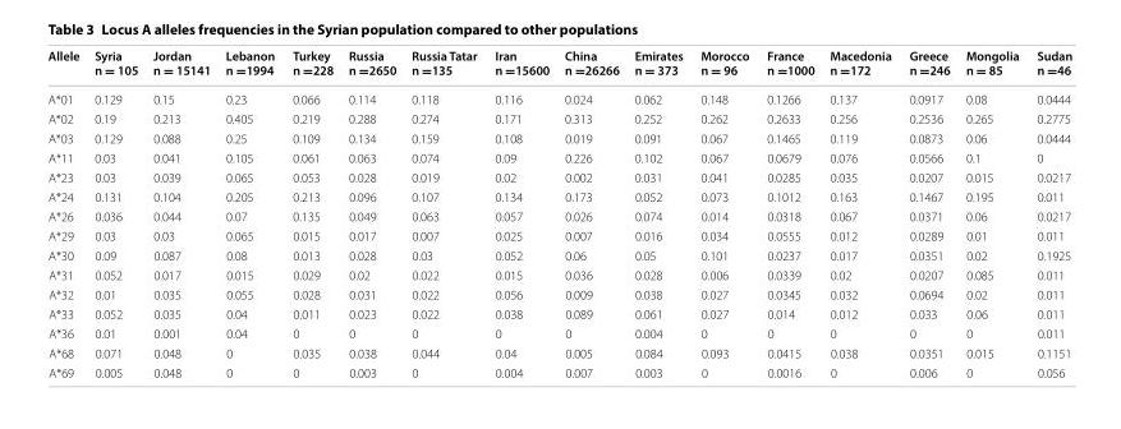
<table><thead><tr><td>Allele</td><td>Syria n = 105</td><td>Jordan n = 15141</td><td>Lebanon n =1994</td><td>Turkey n =228</td><td>Russia n =2650</td><td>Russia Tatar n =135</td><td>Iran n =15600</td><td>China n =26266</td><td>Emirates n = 373</td><td>Morocco n = 96</td><td>France n =1000</td><td>Macedonia n =172</td><td>Greece n =246</td><td>Mongolia n = 85</td><td>Sudan n =46</td></tr></thead><tbody><tr><td>A*01</td><td>0.129</td><td>0.15</td><td>0.23</td><td>0.066</td><td>0.114</td><td>0.118</td><td>0.116</td><td>0.024</td><td>0.062</td><td>0.148</td><td>0.1266</td><td>0.137</td><td>0.0917</td><td>0.08</td><td>0.0444</td></tr><tr><td>A*02</td><td>0.19</td><td>0.213</td><td>0.405</td><td>0.219</td><td>0.288</td><td>0.274</td><td>0.171</td><td>0.313</td><td>0.252</td><td>0.262</td><td>0.2633</td><td>0.256</td><td>0.2536</td><td>0.265</td><td>0.2775</td></tr><tr><td>A*03</td><td>0.129</td><td>0.088</td><td>0.25</td><td>0.109</td><td>0.134</td><td>0.159</td><td>0.108</td><td>0.019</td><td>0.091</td><td>0.067</td><td>0.1465</td><td>0.119</td><td>0.0873</td><td>0.06</td><td>0.0444</td></tr><tr><td>A*11</td><td>0.03</td><td>0.041</td><td>0.105</td><td>0.061</td><td>0.063</td><td>0.074</td><td>0.09</td><td>0.226</td><td>0.102</td><td>0.067</td><td>0.0679</td><td>0.076</td><td>0.0566</td><td>0.1</td><td>0</td></tr><tr><td>A*23</td><td>0.03</td><td>0.039</td><td>0.065</td><td>0.053</td><td>0.028</td><td>0.019</td><td>0.02</td><td>0.002</td><td>0.031</td><td>0.041</td><td>0.0285</td><td>0.035</td><td>0.0207</td><td>0.015</td><td>0.0217</td></tr><tr><td>A*24</td><td>0.131</td><td>0.104</td><td>0.205</td><td>0.213</td><td>0.096</td><td>0.107</td><td>0.134</td><td>0.173</td><td>0.052</td><td>0.073</td><td>0.1012</td><td>0.163</td><td>0.1467</td><td>0.195</td><td>0.011</td></tr><tr><td>A*26</td><td>0.036</td><td>0.044</td><td>0.07</td><td>0.135</td><td>0.049</td><td>0.063</td><td>0.057</td><td>0.026</td><td>0.074</td><td>0.014</td><td>0.0318</td><td>0.067</td><td>0.0371</td><td>0.06</td><td>0.0217</td></tr><tr><td>A*29</td><td>0.03</td><td>0.03</td><td>0.065</td><td>0.015</td><td>0.017</td><td>0.007</td><td>0.025</td><td>0.007</td><td>0.016</td><td>0.034</td><td>0.0555</td><td>0.012</td><td>0.0289</td><td>0.01</td><td>0.011</td></tr><tr><td>A*30</td><td>0.09</td><td>0.087</td><td>0.08</td><td>0.013</td><td>0.028</td><td>0.03</td><td>0.052</td><td>0.06</td><td>0.05</td><td>0.101</td><td>0.0237</td><td>0.017</td><td>0.0351</td><td>0.02</td><td>0.1925</td></tr><tr><td>A*31</td><td>0.052</td><td>0.017</td><td>0.015</td><td>0.029</td><td>0.02</td><td>0.022</td><td>0.015</td><td>0.036</td><td>0.028</td><td>0.006</td><td>0.0339</td><td>0.02</td><td>0.0207</td><td>0.085</td><td>0.011</td></tr><tr><td>A*32</td><td>0.01</td><td>0.035</td><td>0.055</td><td>0.028</td><td>0.031</td><td>0.022</td><td>0.056</td><td>0.009</td><td>0.038</td><td>0.027</td><td>0.0345</td><td>0.032</td><td>0.0694</td><td>0.02</td><td>0.011</td></tr><tr><td>A*33</td><td>0.052</td><td>0.035</td><td>0.04</td><td>0.011</td><td>0.023</td><td>0.022</td><td>0.038</td><td>0.089</td><td>0.061</td><td>0.027</td><td>0.014</td><td>0.012</td><td>0.033</td><td>0.06</td><td>0.011</td></tr><tr><td>A*36</td><td>0.01</td><td>0.001</td><td>0.04</td><td>0</td><td>0</td><td>0</td><td>0</td><td>0</td><td>0.004</td><td>0</td><td>0</td><td>0</td><td>0</td><td>0</td><td>0.011</td></tr><tr><td>A*68</td><td>0.071</td><td>0.048</td><td>0</td><td>0.035</td><td>0.038</td><td>0.044</td><td>0.04</td><td>0.005</td><td>0.084</td><td>0.093</td><td>0.0415</td><td>0.038</td><td>0.0351</td><td>0.015</td><td>0.1151</td></tr><tr><td>A*69</td><td>0.005</td><td>0.048</td><td>0</td><td>0</td><td>0.003</td><td>0</td><td>0.004</td><td>0.007</td><td>0.003</td><td>0</td><td>0.0016</td><td>0</td><td>0.006</td><td>0</td><td>0.056</td></tr></tbody></table>